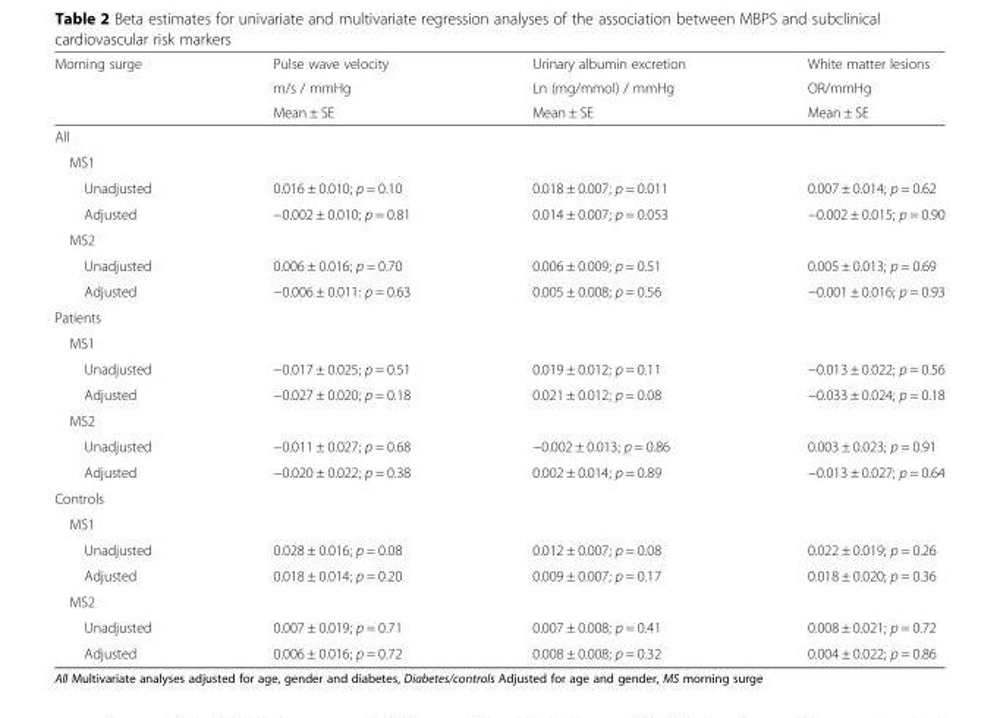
<table><thead><tr><td rowspan="3">Morning surge</td><td rowspan="3">Pulse wave velocity m/s / mmHg Mean ± SE</td><td rowspan="3">Urinary albumin excretion Ln (mg/mmol) / mmHg Mean ± SE</td><td rowspan="3">White matter lesions OR/mmHg Mean ± SE</td></tr><tr></tr><tr></tr></thead><tbody><tr><td colspan="4">All</td></tr><tr><td colspan="4">MS1</td></tr><tr><td>Unadjusted</td><td>0.016 ± 0.010; p = 0.10</td><td>0.018 ± 0.007; p = 0.011</td><td>0.007 ± 0.014; p = 0.62</td></tr><tr><td>Adjusted</td><td>−0.002 ± 0.010; p = 0.81</td><td>0.014 ± 0.007; p = 0.053</td><td>−0.002 ± 0.015; p = 0.90</td></tr><tr><td colspan="4">MS2</td></tr><tr><td>Unadjusted</td><td>0.006 ± 0.016; p = 0.70</td><td>0.006 ± 0.009; p = 0.51</td><td>0.005 ± 0.013; p = 0.69</td></tr><tr><td>Adjusted</td><td>−0.006 ± 0.011: p = 0.63</td><td>0.005 ± 0.008; p = 0.56</td><td>−0.001 ± 0.016; p = 0.93</td></tr><tr><td colspan="4">Patients</td></tr><tr><td colspan="4">MS1</td></tr><tr><td>Unadjusted</td><td>−0.017 ± 0.025; p = 0.51</td><td>0.019 ± 0.012; p = 0.11</td><td>−0.013 ± 0.022; p = 0.56</td></tr><tr><td>Adjusted</td><td>−0.027 ± 0.020; p = 0.18</td><td>0.021 ± 0.012; p = 0.08</td><td>−0.033 ± 0.024; p = 0.18</td></tr><tr><td colspan="4">MS2</td></tr><tr><td>Unadjusted</td><td>−0.011 ± 0.027; p = 0.68</td><td>−0.002 ± 0.013; p = 0.86</td><td>0.003 ± 0.023; p = 0.91</td></tr><tr><td>Adjusted</td><td>−0.020 ± 0.022; p = 0.38</td><td>0.002 ± 0.014; p = 0.89</td><td>−0.013 ± 0.027; p = 0.64</td></tr><tr><td colspan="4">Controls</td></tr><tr><td colspan="4">MS1</td></tr><tr><td>Unadjusted</td><td>0.028 ± 0.016; p = 0.08</td><td>0.012 ± 0.007; p = 0.08</td><td>0.022 ± 0.019; p = 0.26</td></tr><tr><td>Adjusted</td><td>0.018 ± 0.014; p = 0.20</td><td>0.009 ± 0.007; p = 0.17</td><td>0.018 ± 0.020; p = 0.36</td></tr><tr><td colspan="4">MS2</td></tr><tr><td>Unadjusted</td><td>0.007 ± 0.019; p = 0.71</td><td>0.007 ± 0.008; p = 0.41</td><td>0.008 ± 0.021; p = 0.72</td></tr><tr><td>Adjusted</td><td>0.006 ± 0.016; p = 0.72</td><td>0.008 ± 0.008; p = 0.32</td><td>0.004 ± 0.022; p = 0.86</td></tr></tbody></table>